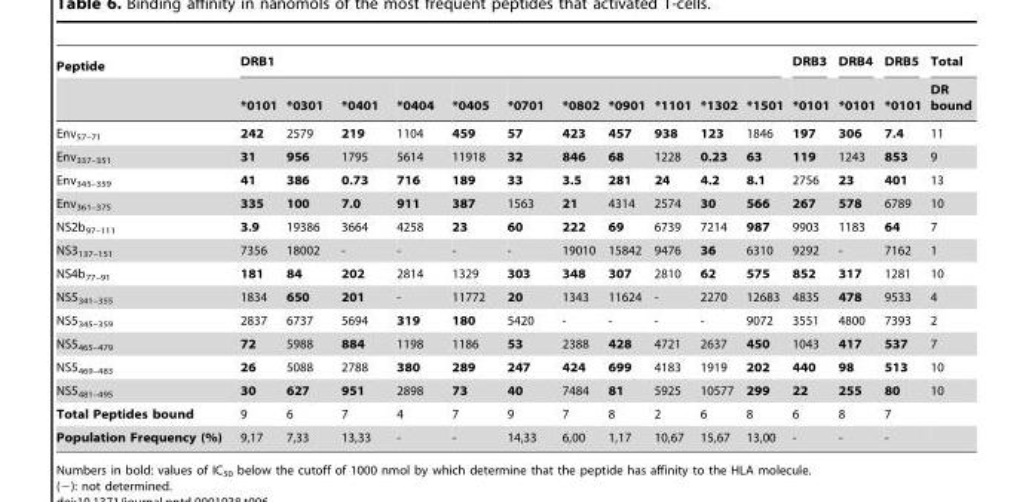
<table><thead><tr><td rowspan="2">Peptide</td><td colspan="11">DRB1</td><td rowspan="2">DRB3 *0101</td><td rowspan="2">DRB4 *0101</td><td rowspan="2">DRB5 *0101</td><td rowspan="2">Total DR bound</td></tr><tr><td>*0101</td><td>*0301</td><td>*0401</td><td>*0404</td><td>*0405</td><td>*0701</td><td>*0802</td><td>*0901</td><td>*1101</td><td>*1302</td><td>*1501</td></tr></thead><tbody><tr><td>Env<sub>57–71</sub></td><td>242</td><td>2579</td><td>219</td><td>1104</td><td>459</td><td>57</td><td>423</td><td>457</td><td>938</td><td>123</td><td>1846</td><td>197</td><td>306</td><td>7.4</td><td>11</td></tr><tr><td>Env<sub>337–351</sub></td><td>31</td><td>956</td><td>1795</td><td>5614</td><td>11918</td><td>32</td><td>846</td><td>68</td><td>1228</td><td>0.23</td><td>63</td><td>119</td><td>1243</td><td>853</td><td>9</td></tr><tr><td>Env<sub>345–359</sub></td><td>41</td><td>386</td><td>0.73</td><td>716</td><td>189</td><td>33</td><td>3.5</td><td>281</td><td>24</td><td>4.2</td><td>8.1</td><td>2756</td><td>23</td><td>401</td><td>13</td></tr><tr><td>Env<sub>361–375</sub></td><td>335</td><td>100</td><td>7.0</td><td>911</td><td>387</td><td>1563</td><td>21</td><td>4314</td><td>2574</td><td>30</td><td>566</td><td>267</td><td>578</td><td>6789</td><td>10</td></tr><tr><td>NS2b<sub>97–111</sub></td><td>3.9</td><td>19386</td><td>3664</td><td>4258</td><td>23</td><td>60</td><td>222</td><td>69</td><td>6739</td><td>7214</td><td>987</td><td>9903</td><td>1183</td><td>64</td><td>7</td></tr><tr><td>NS3<sub>137–151</sub></td><td>7356</td><td>18002</td><td>-</td><td>-</td><td>-</td><td>-</td><td>19010</td><td>15842</td><td>9476</td><td>36</td><td>6310</td><td>9292</td><td>-</td><td>7162</td><td>1</td></tr><tr><td>NS4b<sub>77–91</sub></td><td>181</td><td>84</td><td>202</td><td>2814</td><td>1329</td><td>303</td><td>348</td><td>307</td><td>2810</td><td>62</td><td>575</td><td>852</td><td>317</td><td>1281</td><td>10</td></tr><tr><td>NS5<sub>341–355</sub></td><td>1834</td><td>650</td><td>201</td><td>-</td><td>11772</td><td>20</td><td>1343</td><td>11624</td><td>-</td><td>2270</td><td>12683</td><td>4835</td><td>478</td><td>9533</td><td>4</td></tr><tr><td>NS5<sub>345–359</sub></td><td>2837</td><td>6737</td><td>5694</td><td>319</td><td>180</td><td>5420</td><td>-</td><td>-</td><td>-</td><td>-</td><td>9072</td><td>3551</td><td>4800</td><td>7393</td><td>2</td></tr><tr><td>NS5<sub>465–479</sub></td><td>72</td><td>5988</td><td>884</td><td>1198</td><td>1186</td><td>53</td><td>2388</td><td>428</td><td>4721</td><td>2637</td><td>450</td><td>1043</td><td>417</td><td>537</td><td>7</td></tr><tr><td>NS5<sub>469–483</sub></td><td>26</td><td>5088</td><td>2788</td><td>380</td><td>289</td><td>247</td><td>424</td><td>699</td><td>4183</td><td>1919</td><td>202</td><td>440</td><td>98</td><td>513</td><td>10</td></tr><tr><td>NS5<sub>481–495</sub></td><td>30</td><td>627</td><td>951</td><td>2898</td><td>73</td><td>40</td><td>7484</td><td>81</td><td>5925</td><td>10577</td><td>299</td><td>22</td><td>255</td><td>80</td><td>10</td></tr><tr><td>Total Peptides bound</td><td>9</td><td>6</td><td>7</td><td>4</td><td>7</td><td>9</td><td>7</td><td>8</td><td>2</td><td>6</td><td>8</td><td>6</td><td>8</td><td>7</td><td></td></tr><tr><td>Population Frequency (%)</td><td>9,17</td><td>7,33</td><td>13,33</td><td>-</td><td>-</td><td>14,33</td><td>6,00</td><td>1,17</td><td>10,67</td><td>15,67</td><td>13,00</td><td>-</td><td>-</td><td>-</td><td></td></tr></tbody></table>